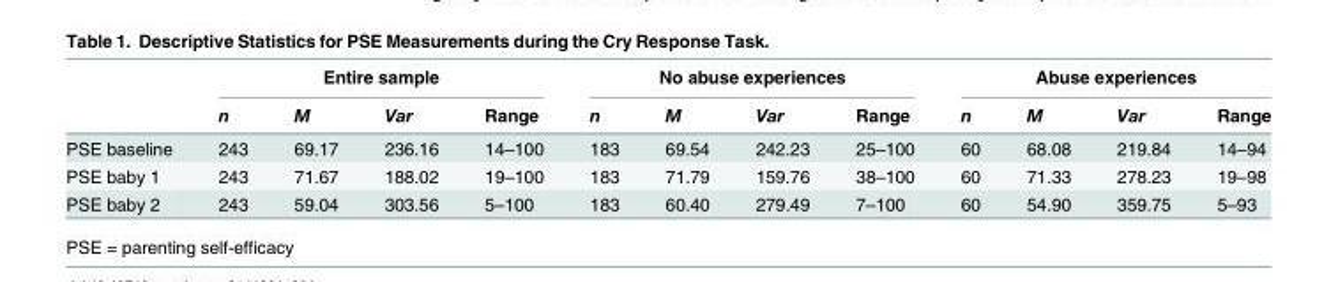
<table><thead><tr><td rowspan="2"></td><td colspan="4">Entire sample</td><td colspan="4">No abuse experiences</td><td colspan="4">Abuse experiences</td></tr><tr><td>n</td><td>M</td><td>Var</td><td>Range</td><td>n</td><td>M</td><td>Var</td><td>Range</td><td>n</td><td>M</td><td>Var</td><td>Range</td></tr></thead><tbody><tr><td>PSE baseline</td><td>243</td><td>69.17</td><td>236.16</td><td>14–100</td><td>183</td><td>69.54</td><td>242.23</td><td>25–100</td><td>60</td><td>68.08</td><td>219.84</td><td>14–94</td></tr><tr><td>PSE baby 1</td><td>243</td><td>71.67</td><td>188.02</td><td>19–100</td><td>183</td><td>71.79</td><td>159.76</td><td>38–100</td><td>60</td><td>71.33</td><td>278.23</td><td>19–98</td></tr><tr><td>PSE baby 2</td><td>243</td><td>59.04</td><td>303.56</td><td>5–100</td><td>183</td><td>60.40</td><td>279.49</td><td>7–100</td><td>60</td><td>54.90</td><td>359.75</td><td>5–93</td></tr></tbody></table>